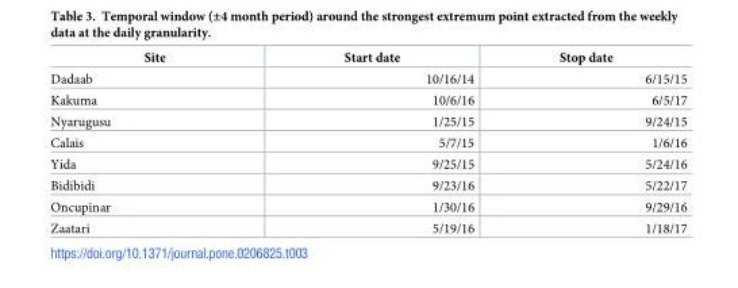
<table><thead><tr><td>Site</td><td>Start date</td><td>Stop date</td></tr></thead><tbody><tr><td>Dadaab</td><td>10/16/14</td><td>6/15/15</td></tr><tr><td>Kakuma</td><td>10/6/16</td><td>6/5/17</td></tr><tr><td>Nyarugusu</td><td>1/25/15</td><td>9/24/15</td></tr><tr><td>Calais</td><td>5/7/15</td><td>1/6/16</td></tr><tr><td>Yida</td><td>9/25/15</td><td>5/24/16</td></tr><tr><td>Bidibidi</td><td>9/23/16</td><td>5/22/17</td></tr><tr><td>Oncupinar</td><td>1/30/16</td><td>9/29/16</td></tr><tr><td>Zaatari</td><td>5/19/16</td><td>1/18/17</td></tr></tbody></table>